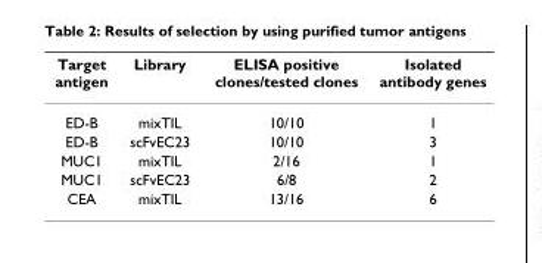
<table><thead><tr><td>Target antigen</td><td>Library</td><td>ELISA positive clones/tested clones</td><td>Isolated antibody genes</td></tr></thead><tbody><tr><td>ED-B</td><td>mixTIL</td><td>10/10</td><td>1</td></tr><tr><td>ED-B</td><td>scFvEC23</td><td>10/10</td><td>3</td></tr><tr><td>MUC1</td><td>mixTIL</td><td>2/16</td><td>1</td></tr><tr><td>MUC1</td><td>scFvEC23</td><td>6/8</td><td>2</td></tr><tr><td>CEA</td><td>mixTIL</td><td>13/16</td><td>6</td></tr></tbody></table>